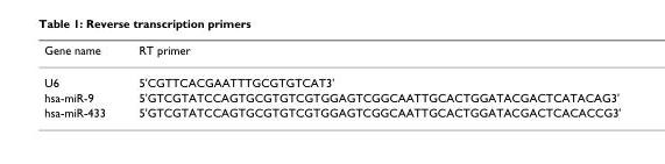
<table><thead><tr><td>Gene name</td><td>RT primer</td></tr></thead><tbody><tr><td>U6</td><td>5&#x27;CGTTCACGAATTTGCGTGTCAT3&#x27;</td></tr><tr><td>hsa-miR-9</td><td>5&#x27;GTCGTATCCAGTGCGTGTCGTGGAGTCGGCAATTGCACTGGATACGACTCATACAG3&#x27;</td></tr><tr><td>hsa-miR-433</td><td>5&#x27;GTCGTATCCAGTGCGTGTCGTGGAGTCGGCAATTGCACTGGATACGACTCACACCG3&#x27;</td></tr></tbody></table>